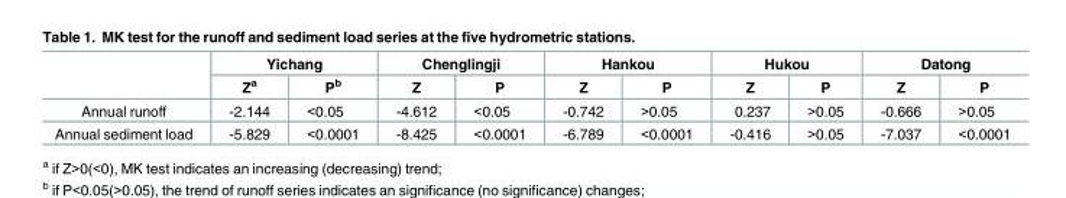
<table><thead><tr><td rowspan="2"></td><td colspan="2">Yichang</td><td colspan="2">Chenglingji</td><td colspan="2">Hankou</td><td colspan="2">Hukou</td><td colspan="2">Datong</td></tr><tr><td>Z<sup>a</sup></td><td>P<sup>b</sup></td><td>Z</td><td>P</td><td>Z</td><td>P</td><td>Z</td><td>P</td><td>Z</td><td>P</td></tr></thead><tbody><tr><td>Annual runoff</td><td>-2.144</td><td>&lt;0.05</td><td>-4.612</td><td>&lt;0.05</td><td>-0.742</td><td>&gt;0.05</td><td>0.237</td><td>&gt;0.05</td><td>-0.666</td><td>&gt;0.05</td></tr><tr><td>Annual sediment load</td><td>-5.829</td><td>&lt;0.0001</td><td>-8.425</td><td>&lt;0.0001</td><td>-6.789</td><td>&lt;0.0001</td><td>-0.416</td><td>&gt;0.05</td><td>-7.037</td><td>&lt;0.0001</td></tr></tbody></table>